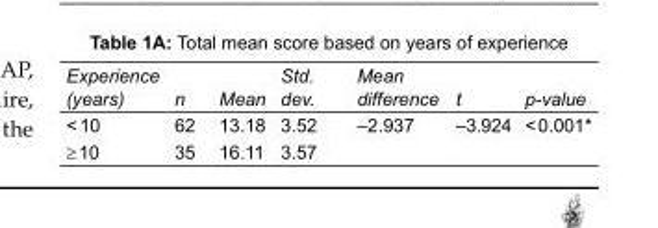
<table><tbody><tr><td>Experience (years)</td><td>n</td><td>Mean</td><td>Std. dev.</td><td>Mean difference</td><td>t</td><td>p-value</td></tr><tr><td>&lt; 10</td><td>62</td><td>13.18</td><td>3.52</td><td>–2.937</td><td>–3.924</td><td>&lt; 0.001*</td></tr><tr><td>≥ 10</td><td>35</td><td>16.11</td><td>3.57</td><td></td><td></td><td></td></tr></tbody></table>